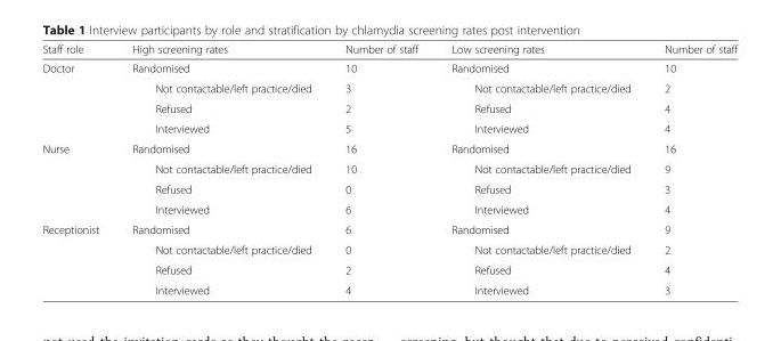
<table><thead><tr><td>Staff role</td><td>High screening rates</td><td>Number of staff</td><td>Low screening rates</td><td>Number of staff</td></tr></thead><tbody><tr><td rowspan="4">Doctor</td><td>Randomised</td><td>10</td><td>Randomised</td><td>10</td></tr><tr><td>Not contactable/left practice/died</td><td>3</td><td>Not contactable/left practice/died</td><td>2</td></tr><tr><td>Refused</td><td>2</td><td>Refused</td><td>4</td></tr><tr><td>Interviewed</td><td>5</td><td>Interviewed</td><td>4</td></tr><tr><td rowspan="4">Nurse</td><td>Randomised</td><td>16</td><td>Randomised</td><td>16</td></tr><tr><td>Not contactable/left practice/died</td><td>10</td><td>Not contactable/left practice/died</td><td>9</td></tr><tr><td>Refused</td><td>0</td><td>Refused</td><td>3</td></tr><tr><td>Interviewed</td><td>6</td><td>Interviewed</td><td>4</td></tr><tr><td rowspan="4">Receptionist</td><td>Randomised</td><td>6</td><td>Randomised</td><td>9</td></tr><tr><td>Not contactable/left practice/died</td><td>0</td><td>Not contactable/left practice/died</td><td>2</td></tr><tr><td>Refused</td><td>2</td><td>Refused</td><td>4</td></tr><tr><td>Interviewed</td><td>4</td><td>Interviewed</td><td>3</td></tr></tbody></table>